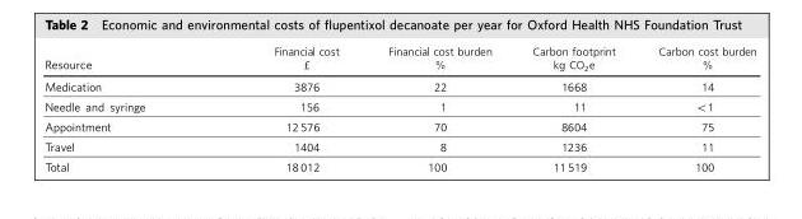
<table><thead><tr><td>Resource</td><td>Financial cost »</td><td>Financial cost burden %</td><td>Carbon footprint kg CO<sub>2</sub>e</td><td>Carbon cost burden %</td></tr></thead><tbody><tr><td>Medication</td><td>3876</td><td>22</td><td>1668</td><td>14</td></tr><tr><td>Needle and syringe</td><td>156</td><td>1</td><td>11</td><td>&lt;1</td></tr><tr><td>Appointment</td><td>12 576</td><td>70</td><td>8604</td><td>75</td></tr><tr><td>Travel</td><td>1404</td><td>8</td><td>1236</td><td>11</td></tr><tr><td>Total</td><td>18 012</td><td>100</td><td>11 519</td><td>100</td></tr></tbody></table>